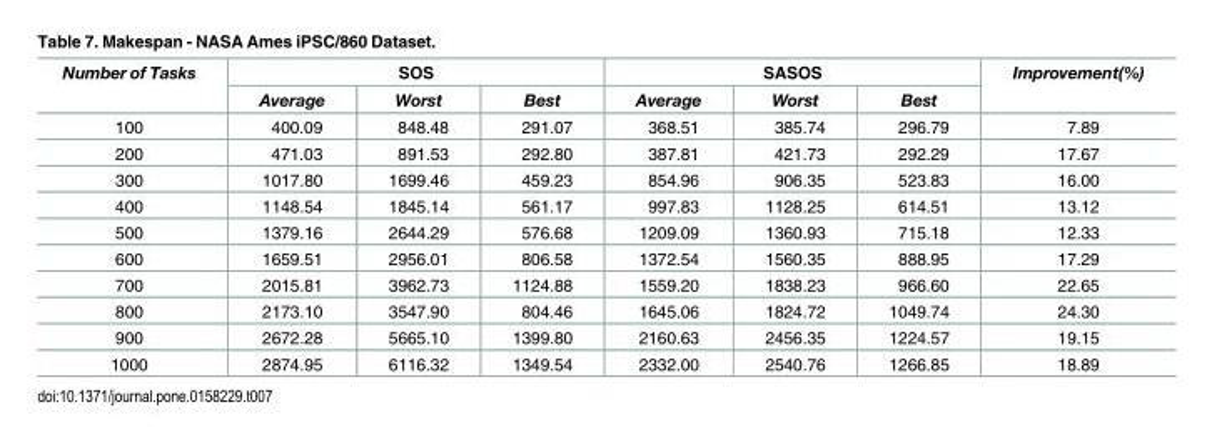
<table><thead><tr><td rowspan="2">Number of Tasks</td><td colspan="3">SOS</td><td colspan="3">SASOS</td><td rowspan="2">Improvement(%)</td></tr><tr><td>Average</td><td>Worst</td><td>Best</td><td>Average</td><td>Worst</td><td>Best</td></tr></thead><tbody><tr><td>100</td><td>400.09</td><td>848.48</td><td>291.07</td><td>368.51</td><td>385.74</td><td>296.79</td><td>7.89</td></tr><tr><td>200</td><td>471.03</td><td>891.53</td><td>292.80</td><td>387.81</td><td>421.73</td><td>292.29</td><td>17.67</td></tr><tr><td>300</td><td>1017.80</td><td>1699.46</td><td>459.23</td><td>854.96</td><td>906.35</td><td>523.83</td><td>16.00</td></tr><tr><td>400</td><td>1148.54</td><td>1845.14</td><td>561.17</td><td>997.83</td><td>1128.25</td><td>614.51</td><td>13.12</td></tr><tr><td>500</td><td>1379.16</td><td>2644.29</td><td>576.68</td><td>1209.09</td><td>1360.93</td><td>715.18</td><td>12.33</td></tr><tr><td>600</td><td>1659.51</td><td>2956.01</td><td>806.58</td><td>1372.54</td><td>1560.35</td><td>888.95</td><td>17.29</td></tr><tr><td>700</td><td>2015.81</td><td>3962.73</td><td>1124.88</td><td>1559.20</td><td>1838.23</td><td>966.60</td><td>22.65</td></tr><tr><td>800</td><td>2173.10</td><td>3547.90</td><td>804.46</td><td>1645.06</td><td>1824.72</td><td>1049.74</td><td>24.30</td></tr><tr><td>900</td><td>2672.28</td><td>5665.10</td><td>1399.80</td><td>2160.63</td><td>2456.35</td><td>1224.57</td><td>19.15</td></tr><tr><td>1000</td><td>2874.95</td><td>6116.32</td><td>1349.54</td><td>2332.00</td><td>2540.76</td><td>1266.85</td><td>18.89</td></tr></tbody></table>